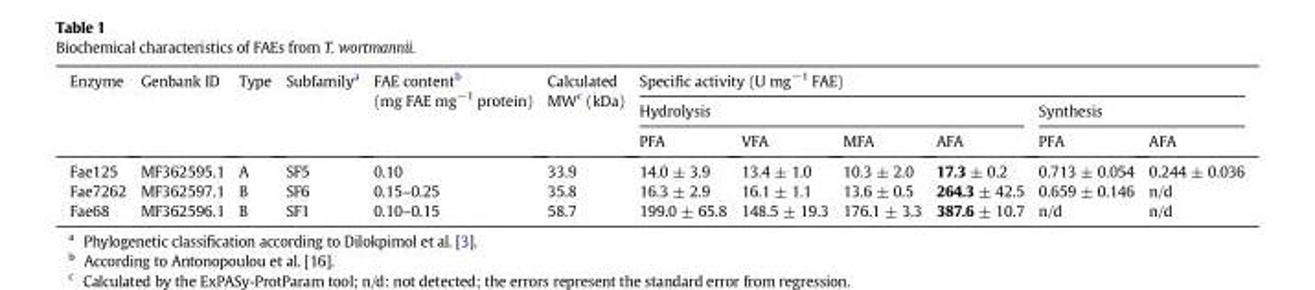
<table><thead><tr><td rowspan="3">Enzyme</td><td rowspan="3">Genbank ID</td><td rowspan="3">Type</td><td rowspan="3">Subfamily<sup>a</sup></td><td rowspan="3">FAE content<sup>b</sup> (mg FAE mg<sup>−1</sup> protein)</td><td rowspan="3">Calculated MW<sup>c</sup> (kDa)</td><td colspan="6">Specific activity (U mg<sup>−1</sup> FAE)</td></tr><tr><td colspan="4">Hydrolysis</td><td colspan="2">Synthesis</td></tr><tr><td>PFA</td><td>VFA</td><td>MFA</td><td>AFA</td><td>PFA</td><td>AFA</td></tr></thead><tbody><tr><td>Fae125</td><td>MF362595.1</td><td>A</td><td>SF5</td><td>0.10</td><td>33.9</td><td>14.0 ± 3.9</td><td>13.4 ± 1.0</td><td>10.3 ± 2.0</td><td>17.3 ± 0.2</td><td>0.713 ± 0.054</td><td>0.244 ± 0.036</td></tr><tr><td>Fae7262</td><td>MF362597.1</td><td>B</td><td>SF6</td><td>0.15–0.25</td><td>35.8</td><td>16.3 ± 2.9</td><td>16.1 ± 1.1</td><td>13.6 ± 0.5</td><td>264.3 ± 42.5</td><td>0.659 ± 0.146</td><td>n/d</td></tr><tr><td>Fae68</td><td>MF362596.1</td><td>B</td><td>SF1</td><td>0.10–0.15</td><td>58.7</td><td>199.0 ± 65.8</td><td>148.5 ± 19.3</td><td>176.1 ± 3.3</td><td>387.6 ± 10.7</td><td>n/d</td><td>n/d</td></tr></tbody></table>